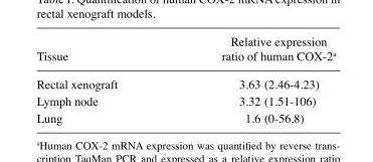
<table><thead><tr><td>Tissue</td><td>Relative expression ratio of human COX-2<sup>a</sup></td></tr></thead><tbody><tr><td>Rectal xenograft</td><td>3.63 (2.46-4.23)</td></tr><tr><td>Lymph node</td><td>3.32 (1.51-106)</td></tr><tr><td>Lung</td><td>1.6 (0-56.8)</td></tr></tbody></table>